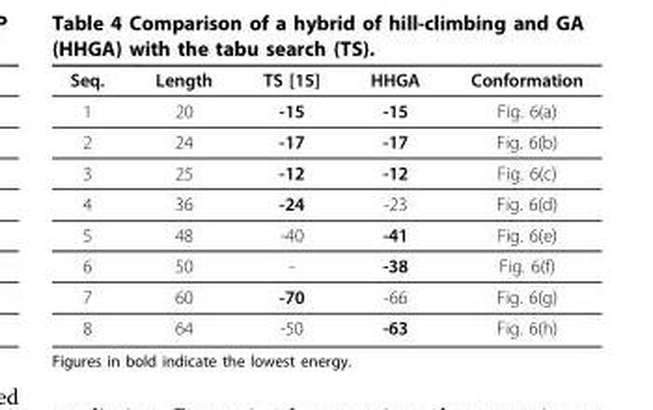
<table><thead><tr><td>Seq.</td><td>Length</td><td>TS [15]</td><td>HHGA</td><td>Conformation</td></tr></thead><tbody><tr><td>1</td><td>20</td><td>-15</td><td>-15</td><td>Fig. 6(a)</td></tr><tr><td>2</td><td>24</td><td>-17</td><td>-17</td><td>Fig. 6(b)</td></tr><tr><td>3</td><td>25</td><td>-12</td><td>-12</td><td>Fig. 6(c)</td></tr><tr><td>4</td><td>36</td><td>-24</td><td>-23</td><td>Fig. 6(d)</td></tr><tr><td>5</td><td>48</td><td>-40</td><td>-41</td><td>Fig. 6(e)</td></tr><tr><td>6</td><td>50</td><td>-</td><td>-38</td><td>Fig. 6(f)</td></tr><tr><td>7</td><td>60</td><td>-70</td><td>-66</td><td>Fig. 6(g)</td></tr><tr><td>8</td><td>64</td><td>-50</td><td>-63</td><td>Fig. 6(h)</td></tr></tbody></table>